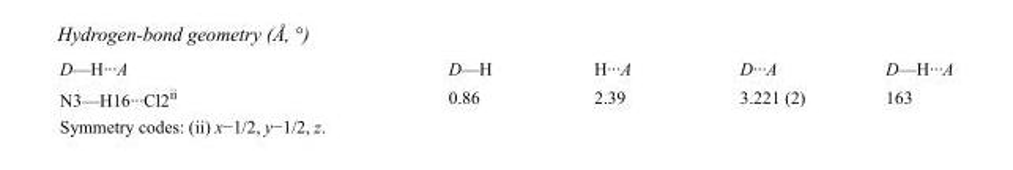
<table><tbody><tr><td>D—H···A</td><td>D—H</td><td>H···A</td><td>D···A</td><td>D—H···A</td></tr><tr><td>N3—H16···Cl2<sup>ii</sup></td><td>0.86</td><td>2.39</td><td>3.221 (2)</td><td>163</td></tr></tbody></table>